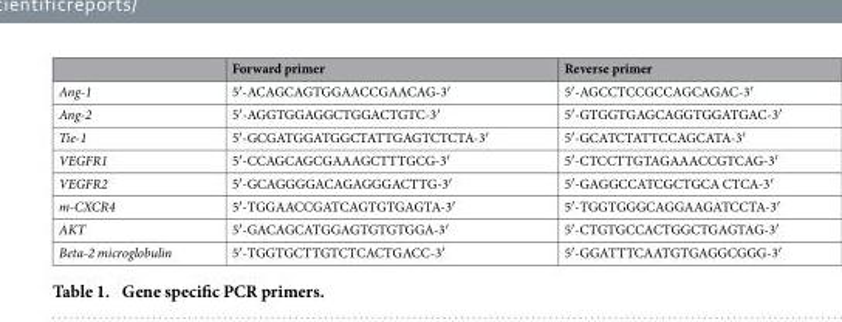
<table><thead><tr><td></td><td>Forward primer</td><td>Reverse primer</td></tr></thead><tbody><tr><td>Ang-1</td><td>5′ -ACAGCAGTGGAACCGAACAG-3′</td><td>5′ -AGCCTCCGCCAGCAGAC-3′</td></tr><tr><td>Ang-2</td><td>5′ -AGGTGGAGGCTGGACTGTC-3′</td><td>5′ -GTGGTGAGCAGGTGGATGAC-3′</td></tr><tr><td>Tie-1</td><td>5′ -GCGATGGATGGCTATTGAGTCTCTA-3′</td><td>5′ -GCATCTATTCCAGCATA-3′</td></tr><tr><td>VEGFR1</td><td>5′ -CCAGCAGCGAAAGCTTTGCG-3′</td><td>5′ -CTCCTTGTAGAAACCGTCAG-3′</td></tr><tr><td>VEGFR2</td><td>5′ -GCAGGGGACAGAGGGACTTG-3′</td><td>5′ -GAGGCCATCGCTGCA CTCA-3′</td></tr><tr><td>m-CXCR4</td><td>5′ -TGGAACCGATCAGTGTGAGTA-3′</td><td>5′ -TGGTGGGCAGGAAGATCCTA-3′</td></tr><tr><td>AKT</td><td>5′ -GACAGCATGGAGTGTGTGGA-3′</td><td>5′ -CTGTGCCACTGGCTGAGTAG-3′</td></tr><tr><td>Beta-2 microglobulin</td><td>5′ -TGGTGCTTGTCTCACTGACC-3′</td><td>5′ -GGATTTCAATGTGAGGCGGG-3′</td></tr></tbody></table>